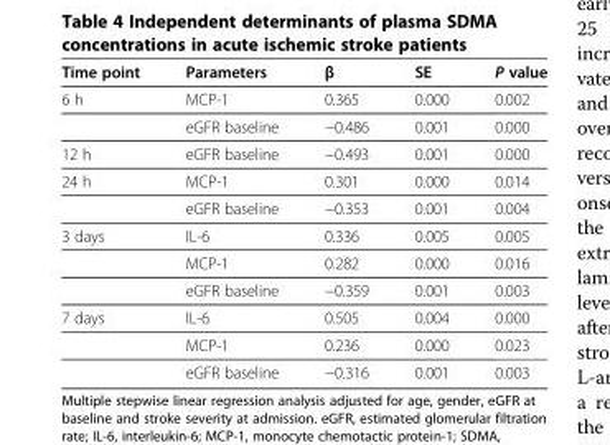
<table><thead><tr><td>Time point</td><td>Parameters</td><td>β</td><td>SE</td><td>P value</td></tr></thead><tbody><tr><td rowspan="2">6 h</td><td>MCP-1</td><td>0.365</td><td>0.000</td><td>0.002</td></tr><tr><td>eGFR baseline</td><td>−0.486</td><td>0.001</td><td>0.000</td></tr><tr><td>12 h</td><td>eGFR baseline</td><td>−0.493</td><td>0.001</td><td>0.000</td></tr><tr><td rowspan="2">24 h</td><td>MCP-1</td><td>0.301</td><td>0.000</td><td>0.014</td></tr><tr><td>eGFR baseline</td><td>−0.353</td><td>0.001</td><td>0.004</td></tr><tr><td rowspan="3">3 days</td><td>IL-6</td><td>0.336</td><td>0.005</td><td>0.005</td></tr><tr><td>MCP-1</td><td>0.282</td><td>0.000</td><td>0.016</td></tr><tr><td>eGFR baseline</td><td>−0.359</td><td>0.001</td><td>0.003</td></tr><tr><td rowspan="3">7 days</td><td>IL-6</td><td>0.505</td><td>0.004</td><td>0.000</td></tr><tr><td>MCP-1</td><td>0.236</td><td>0.000</td><td>0.023</td></tr><tr><td>eGFR baseline</td><td>−0.316</td><td>0.001</td><td>0.003</td></tr></tbody></table>